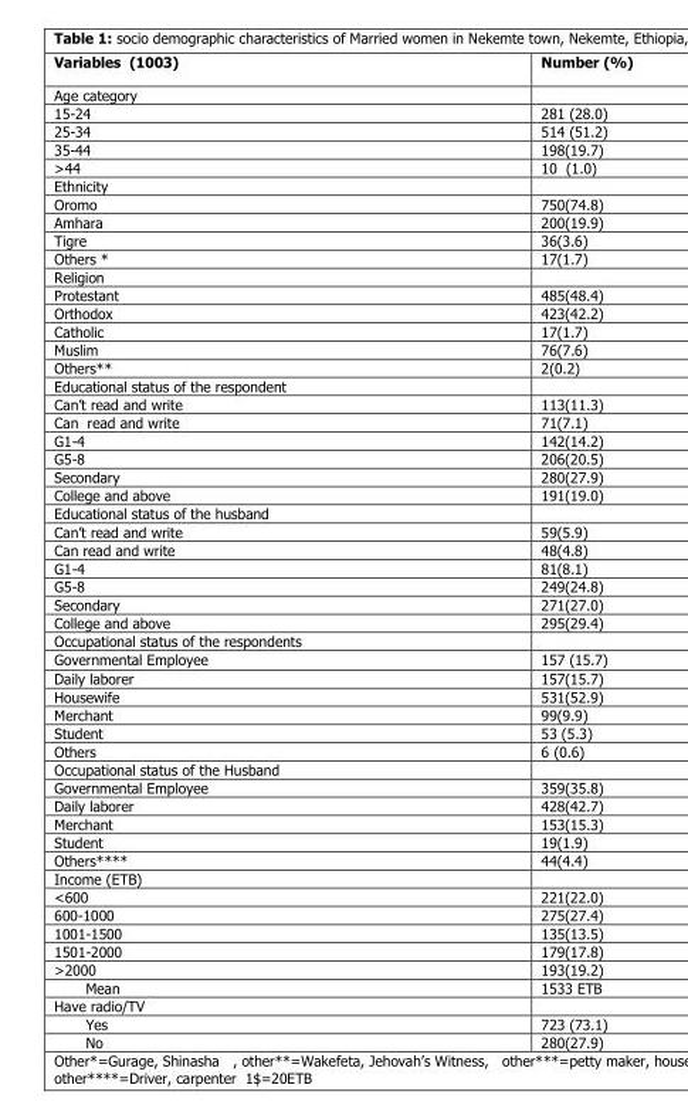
<table><thead><tr><td>Variables (1003)</td><td>Number (%)</td></tr></thead><tbody><tr><td colspan="2">Age category</td></tr><tr><td>15-24</td><td>281 (28.0)</td></tr><tr><td>25-34</td><td>514 (51.2)</td></tr><tr><td>35-44</td><td>198(19.7)</td></tr><tr><td>&gt;44</td><td>10 (1.0)</td></tr><tr><td colspan="2">Ethnicity</td></tr><tr><td>Oromo</td><td>750(74.8)</td></tr><tr><td>Amhara</td><td>200(19.9)</td></tr><tr><td>Tigre</td><td>36(3.6)</td></tr><tr><td>Others *</td><td>17(1.7)</td></tr><tr><td colspan="2">Religion</td></tr><tr><td>Protestant</td><td>485(48.4)</td></tr><tr><td>Orthodox</td><td>423(42.2)</td></tr><tr><td>Catholic</td><td>17(1.7)</td></tr><tr><td>Muslim</td><td>76(7.6)</td></tr><tr><td>Others**</td><td>2(0.2)</td></tr><tr><td colspan="2">Educational status of the respondent</td></tr><tr><td>Can’t read and write</td><td>113(11.3)</td></tr><tr><td>Can read and write</td><td>71(7.1)</td></tr><tr><td>G1-4</td><td>142(14.2)</td></tr><tr><td>G5-8</td><td>206(20.5)</td></tr><tr><td>Secondary</td><td>280(27.9)</td></tr><tr><td>College and above</td><td>191(19.0)</td></tr><tr><td colspan="2">Educational status of the husband</td></tr><tr><td>Can’t read and write</td><td>59(5.9)</td></tr><tr><td>Can read and write</td><td>48(4.8)</td></tr><tr><td>G1-4</td><td>81(8.1)</td></tr><tr><td>G5-8</td><td>249(24.8)</td></tr><tr><td>Secondary</td><td>271(27.0)</td></tr><tr><td>College and above</td><td>295(29.4)</td></tr><tr><td colspan="2">Occupational status of the respondents</td></tr><tr><td>Governmental Employee</td><td>157 (15.7)</td></tr><tr><td>Daily laborer</td><td>157(15.7)</td></tr><tr><td>Housewife</td><td>531(52.9)</td></tr><tr><td>Merchant</td><td>99(9.9)</td></tr><tr><td>Student</td><td>53 (5.3)</td></tr><tr><td>Others</td><td>6 (0.6)</td></tr><tr><td colspan="2">Occupational status of the Husband</td></tr><tr><td>Governmental Employee</td><td>359(35.8)</td></tr><tr><td>Daily laborer</td><td>428(42.7)</td></tr><tr><td>Merchant</td><td>153(15.3)</td></tr><tr><td>Student</td><td>19(1.9)</td></tr><tr><td>Others****</td><td>44(4.4)</td></tr><tr><td colspan="2">Income (ETB)</td></tr><tr><td>&lt;600</td><td>221(22.0)</td></tr><tr><td>600-1000</td><td>275(27.4)</td></tr><tr><td>1001-1500</td><td>135(13.5)</td></tr><tr><td>1501-2000</td><td>179(17.8)</td></tr><tr><td>&gt;2000</td><td>193(19.2)</td></tr><tr><td>Mean</td><td>1533 ETB</td></tr><tr><td colspan="2">Have radio/TV</td></tr><tr><td>Yes</td><td>723 (73.1)</td></tr><tr><td>No</td><td>280(27.9)</td></tr></tbody></table>